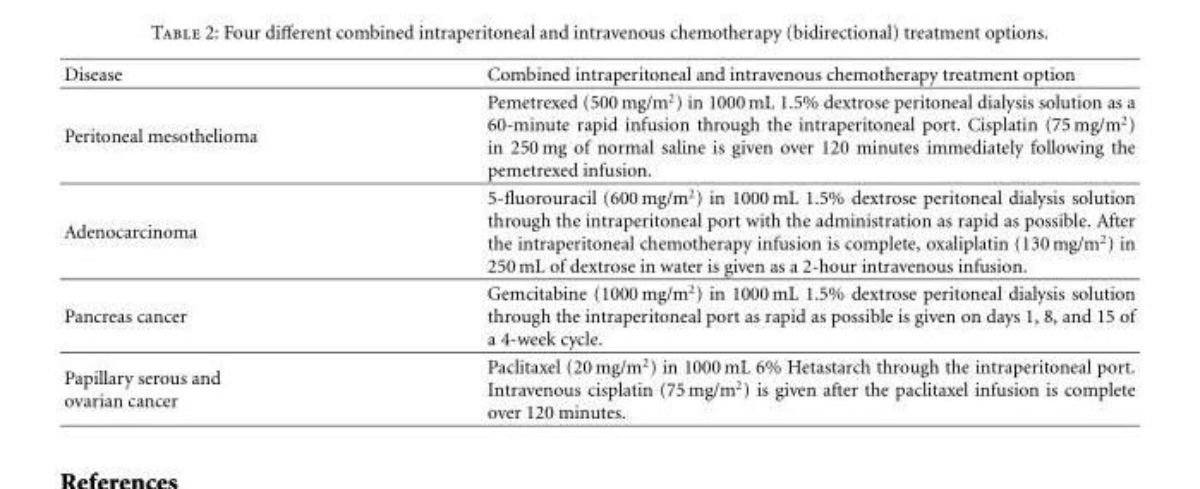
<table><thead><tr><td>Disease</td><td>Combined intraperitoneal and intravenous chemotherapy treatment option</td></tr></thead><tbody><tr><td>Peritoneal mesothelioma</td><td>Pemetrexed (500 mg/m<sup>2</sup>) in 1000 mL 1.5% dextrose peritoneal dialysis solution as a 60-minute rapid infusion through the intraperitoneal port. Cisplatin (75 mg/m<sup>2</sup>) in 250 mg of normal saline is given over 120 minutes immediately following the pemetrexed infusion.</td></tr><tr><td>Adenocarcinoma</td><td>5-fluorouracil (600 mg/m<sup>2</sup>) in 1000 mL 1.5% dextrose peritoneal dialysis solution through the intraperitoneal port with the administration as rapid as possible. After the intraperitoneal chemotherapy infusion is complete, oxaliplatin (130 mg/m<sup>2</sup>) in 250 mL of dextrose in water is given as a 2-hour intravenous infusion.</td></tr><tr><td>Pancreas cancer</td><td>Gemcitabine (1000 mg/m<sup>2</sup>) in 1000 mL 1.5% dextrose peritoneal dialysis solution through the intraperitoneal port as rapid as possible is given on days 1, 8, and 15 of a 4-week cycle.</td></tr><tr><td>Papillary serous and ovarian cancer</td><td>Paclitaxel (20 mg/m<sup>2</sup>) in 1000 mL 6% Hetastarch through the intraperitoneal port. Intravenous cisplatin (75 mg/m<sup>2</sup>) is given after the paclitaxel infusion is complete over 120 minutes.</td></tr></tbody></table>